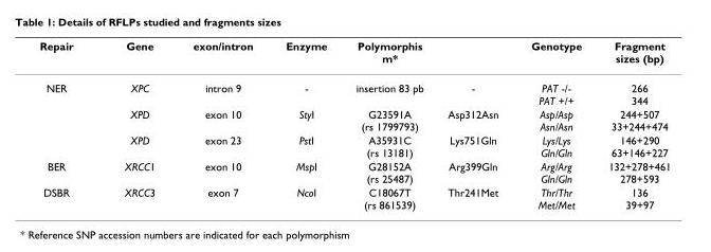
<table><thead><tr><td>Repair</td><td>Gene</td><td>exon/intron</td><td>Enzyme</td><td>Polymorphis m*</td><td></td><td>Genotype</td><td>Fragment sizes (bp)</td></tr></thead><tbody><tr><td rowspan="3">NER</td><td>XPC</td><td>intron 9</td><td>-</td><td>insertion 83 pb</td><td>-</td><td>PAT -/- PAT +/+</td><td>266 344</td></tr><tr><td>XPD</td><td>exon 10</td><td>StyI</td><td>G23591A (rs 1799793)</td><td>Asp312Asn</td><td>Asp/Asp Asn/Asn</td><td>244+507 33+244+474</td></tr><tr><td>XPD</td><td>exon 23</td><td>PstI</td><td>A35931C (rs 13181)</td><td>Lys751Gln</td><td>Lys/Lys Gln/Gln</td><td>146+290 63+146+227</td></tr><tr><td>BER</td><td>XRCC1</td><td>exon 10</td><td>MspI</td><td>G28152A (rs 25487)</td><td>Arg399Gln</td><td>Arg/Arg Gln/Gln</td><td>132+278+461 278+593</td></tr><tr><td>DSBR</td><td>XRCC3</td><td>exon 7</td><td>NcoI</td><td>C18067T (rs 861539)</td><td>Thr241Met</td><td>Thr/Thr Met/Met</td><td>136 39+97</td></tr></tbody></table>